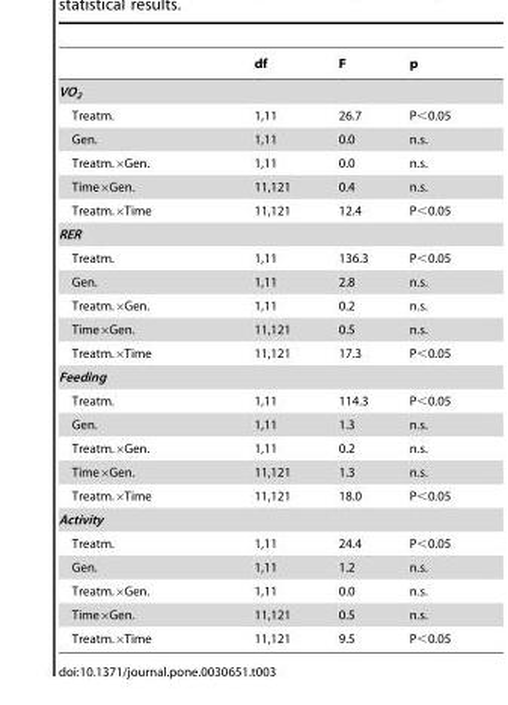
<table><thead><tr><td></td><td>df</td><td>F</td><td>p</td></tr></thead><tbody><tr><td colspan="4">VO<sub>2</sub></td></tr><tr><td>Treatm.</td><td>1,11</td><td>26.7</td><td>P&lt;0.05</td></tr><tr><td>Gen.</td><td>1,11</td><td>0.0</td><td>n.s.</td></tr><tr><td>Treatm.×Gen.</td><td>1,11</td><td>0.0</td><td>n.s.</td></tr><tr><td>Time×Gen.</td><td>11,121</td><td>0.4</td><td>n.s.</td></tr><tr><td>Treatm.×Time</td><td>11,121</td><td>12.4</td><td>P&lt;0.05</td></tr><tr><td colspan="4">RER</td></tr><tr><td>Treatm.</td><td>1,11</td><td>136.3</td><td>P&lt;0.05</td></tr><tr><td>Gen.</td><td>1,11</td><td>2.8</td><td>n.s.</td></tr><tr><td>Treatm.×Gen.</td><td>1,11</td><td>0.2</td><td>n.s.</td></tr><tr><td>Time×Gen.</td><td>11,121</td><td>0.5</td><td>n.s.</td></tr><tr><td>Treatm.×Time</td><td>11,121</td><td>17.3</td><td>P&lt;0.05</td></tr><tr><td colspan="4">Feeding</td></tr><tr><td>Treatm.</td><td>1,11</td><td>114.3</td><td>P&lt;0.05</td></tr><tr><td>Gen.</td><td>1,11</td><td>1.3</td><td>n.s.</td></tr><tr><td>Treatm.×Gen.</td><td>1,11</td><td>0.2</td><td>n.s.</td></tr><tr><td>Time×Gen.</td><td>11,121</td><td>1.3</td><td>n.s.</td></tr><tr><td>Treatm.×Time</td><td>11,121</td><td>18.0</td><td>P&lt;0.05</td></tr><tr><td colspan="4">Activity</td></tr><tr><td>Treatm.</td><td>1,11</td><td>24.4</td><td>P&lt;0.05</td></tr><tr><td>Gen.</td><td>1,11</td><td>1.2</td><td>n.s.</td></tr><tr><td>Treatm.×Gen.</td><td>1,11</td><td>0.0</td><td>n.s.</td></tr><tr><td>Time×Gen.</td><td>11,121</td><td>0.5</td><td>n.s.</td></tr><tr><td>Treatm.×Time</td><td>11,121</td><td>9.5</td><td>P&lt;0.05</td></tr></tbody></table>